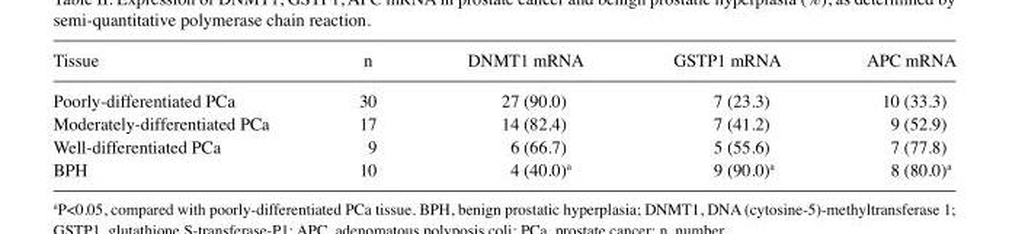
<table><thead><tr><td>Tissue</td><td>n</td><td>DNMT1 mRNA</td><td>GSTP1 mRNA</td><td>APC mRNA</td></tr></thead><tbody><tr><td>Poorly‑differentiated PCa</td><td>30</td><td>27 (90.0)</td><td>7 (23.3)</td><td>10 (33.3)</td></tr><tr><td>Moderately‑differentiated PCa</td><td>17</td><td>14 (82.4)</td><td>7 (41.2)</td><td>9 (52.9)</td></tr><tr><td>Well‑differentiated PCa</td><td>9</td><td>6 (66.7)</td><td>5 (55.6)</td><td>7 (77.8)</td></tr><tr><td>BPH</td><td>10</td><td>4 (40.0)<sup>a</sup></td><td>9 (90.0)<sup>a</sup></td><td>8 (80.0)<sup>a</sup></td></tr></tbody></table>